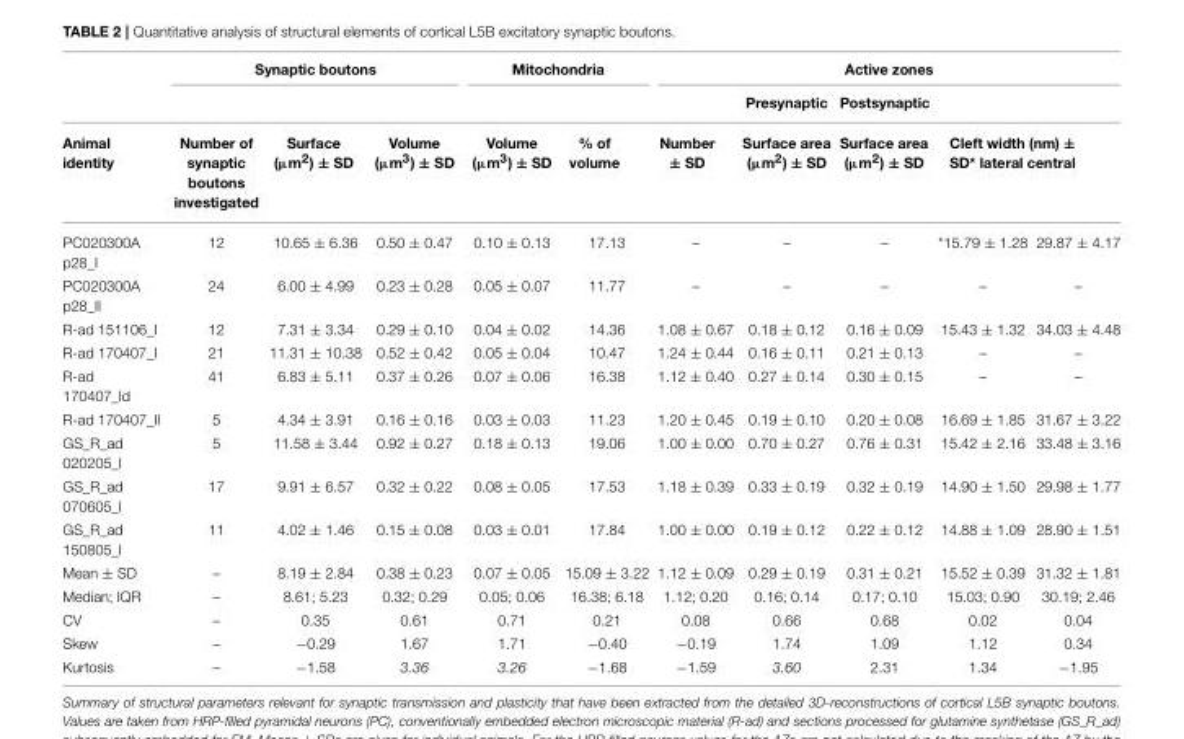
<table><thead><tr><td rowspan="3">Animal identity</td><td colspan="3">Synaptic boutons</td><td colspan="2">Mitochondria</td><td colspan="5">Active zones</td></tr><tr><td rowspan="2">Number of synaptic boutons investigated</td><td rowspan="2">Surface (µm<sup>2</sup>) ± SD</td><td rowspan="2">Volume (µm<sup>3</sup>) ± SD</td><td rowspan="2">Volume (µm<sup>3</sup>) ± SD</td><td rowspan="2">% of volume</td><td rowspan="2">Number ± SD</td><td rowspan="2">Presynaptic Surface area (µm<sup>2</sup>) ± SD</td><td rowspan="2">Postsynaptic Surface area (µm<sup>2</sup>) ± SD</td><td></td><td></td></tr><tr><td colspan="2">Cleft width (nm) ± SD* lateral central</td></tr></thead><tbody><tr><td>PC020300A p28_I</td><td>12</td><td>10.65 ± 6.36</td><td>0.50 ± 0.47</td><td>0.10 ± 0.13</td><td>17.13</td><td>–</td><td>–</td><td>–</td><td>*15.79 ± 1.28</td><td>29.87 ± 4.17</td></tr><tr><td>PC020300A p28_II</td><td>24</td><td>6.00 ± 4.99</td><td>0.23 ± 0.28</td><td>0.05 ± 0.07</td><td>11.77</td><td>–</td><td>–</td><td>–</td><td>–</td><td>–</td></tr><tr><td>R-ad 151106_I</td><td>12</td><td>7.31 ± 3.34</td><td>0.29 ± 0.10</td><td>0.04 ± 0.02</td><td>14.36</td><td>1.08 ± 0.67</td><td>0.18 ± 0.12</td><td>0.16 ± 0.09</td><td>15.43 ± 1.32</td><td>34.03 ± 4.48</td></tr><tr><td>R-ad 170407_I</td><td>21</td><td>11.31 ± 10.38</td><td>0.52 ± 0.42</td><td>0.05 ± 0.04</td><td>10.47</td><td>1.24 ± 0.44</td><td>0.16 ± 0.11</td><td>0.21 ± 0.13</td><td>–</td><td>–</td></tr><tr><td>R-ad 170407_Id</td><td>41</td><td>6.83 ± 5.11</td><td>0.37 ± 0.26</td><td>0.07 ± 0.06</td><td>16.38</td><td>1.12 ± 0.40</td><td>0.27 ± 0.14</td><td>0.30 ± 0.15</td><td>–</td><td>–</td></tr><tr><td>R-ad 170407_II</td><td>5</td><td>4.34 ± 3.91</td><td>0.16 ± 0.16</td><td>0.03 ± 0.03</td><td>11.23</td><td>1.20 ± 0.45</td><td>0.19 ± 0.10</td><td>0.20 ± 0.08</td><td>16.69 ± 1.85</td><td>31.67 ± 3.22</td></tr><tr><td>GS_R_ad 020205_I</td><td>5</td><td>11.58 ± 3.44</td><td>0.92 ± 0.27</td><td>0.18 ± 0.13</td><td>19.06</td><td>1.00 ± 0.00</td><td>0.70 ± 0.27</td><td>0.76 ± 0.31</td><td>15.42 ± 2.16</td><td>33.48 ± 3.16</td></tr><tr><td>GS_R_ad 070605_I</td><td>17</td><td>9.91 ± 6.57</td><td>0.32 ± 0.22</td><td>0.08 ± 0.05</td><td>17.53</td><td>1.18 ± 0.39</td><td>0.33 ± 0.19</td><td>0.32 ± 0.19</td><td>14.90 ± 1.50</td><td>29.98 ± 1.77</td></tr><tr><td>GS_R_ad 150805_I</td><td>11</td><td>4.02 ± 1.46</td><td>0.15 ± 0.08</td><td>0.03 ± 0.01</td><td>17.84</td><td>1.00 ± 0.00</td><td>0.19 ± 0.12</td><td>0.22 ± 0.12</td><td>14.88 ± 1.09</td><td>28.90 ± 1.51</td></tr><tr><td>Mean ± SD</td><td>–</td><td>8.19 ± 2.84</td><td>0.38 ± 0.23</td><td>0.07 ± 0.05</td><td>15.09 ± 3.22</td><td>1.12 ± 0.09</td><td>0.29 ± 0.19</td><td>0.31 ± 0.21</td><td>15.52 ± 0.39</td><td>31.32 ± 1.81</td></tr><tr><td>Median; IQR</td><td>–</td><td>8.61; 5.23</td><td>0.32; 0.29</td><td>0.05; 0.06</td><td>16.38; 6.18</td><td>1.12; 0.20</td><td>0.16; 0.14</td><td>0.17; 0.10</td><td>15.03; 0.90</td><td>30.19; 2.46</td></tr><tr><td>CV</td><td>–</td><td>0.35</td><td>0.61</td><td>0.71</td><td>0.21</td><td>0.08</td><td>0.66</td><td>0.68</td><td>0.02</td><td>0.04</td></tr><tr><td>Skew</td><td>–</td><td>−0.29</td><td>1.67</td><td>1.71</td><td>−0.40</td><td>−0.19</td><td>1.74</td><td>1.09</td><td>1.12</td><td>0.34</td></tr><tr><td>Kurtosis</td><td>–</td><td>−1.58</td><td>3.36</td><td>3.26</td><td>−1.68</td><td>−1.59</td><td>3.60</td><td>2.31</td><td>1.34</td><td>−1.95</td></tr></tbody></table>